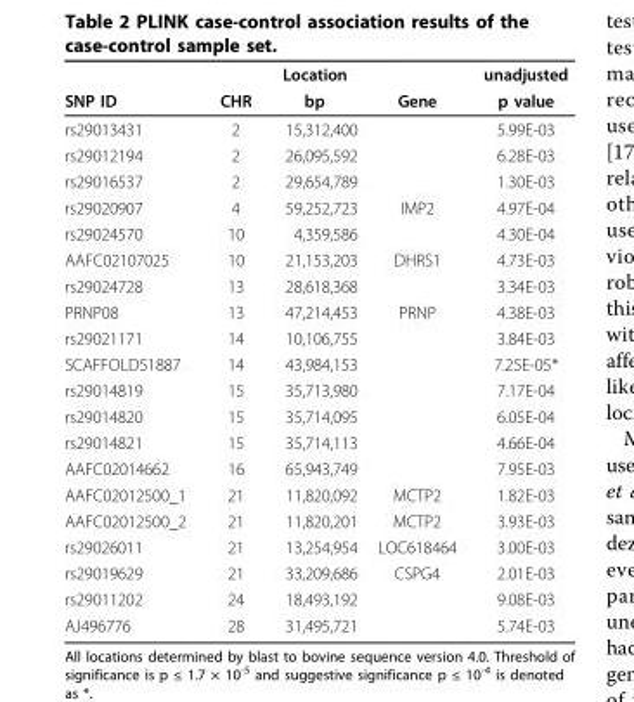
<table><thead><tr><td rowspan="2">SNP ID</td><td rowspan="2">CHR</td><td rowspan="2">Location bp</td><td rowspan="2">Gene</td><td rowspan="2">unadjusted p value</td></tr><tr></tr></thead><tbody><tr><td>rs29013431</td><td>2</td><td>15,312,400</td><td></td><td>5.99E-03</td></tr><tr><td>rs29012194</td><td>2</td><td>26,095,592</td><td></td><td>6.28E-03</td></tr><tr><td>rs29016537</td><td>2</td><td>29,654,789</td><td></td><td>1.30E-03</td></tr><tr><td>rs29020907</td><td>4</td><td>59,252,723</td><td>IMP2</td><td>4.97E-04</td></tr><tr><td>rs29024570</td><td>10</td><td>4,359,586</td><td></td><td>4.30E-04</td></tr><tr><td>AAFC02107025</td><td>10</td><td>21,153,203</td><td>DHRS1</td><td>4.73E-03</td></tr><tr><td>rs29024728</td><td>13</td><td>28,618,368</td><td></td><td>3.34E-03</td></tr><tr><td>PRNP08</td><td>13</td><td>47,214,453</td><td>PRNP</td><td>4.38E-03</td></tr><tr><td>rs29021171</td><td>14</td><td>10,106,755</td><td></td><td>3.84E-03</td></tr><tr><td>SCAFFOLD51887</td><td>14</td><td>43,984,153</td><td></td><td>7.25E-05*</td></tr><tr><td>rs29014819</td><td>15</td><td>35,713,980</td><td></td><td>7.17E-04</td></tr><tr><td>rs29014820</td><td>15</td><td>35,714,095</td><td></td><td>6.05E-04</td></tr><tr><td>rs29014821</td><td>15</td><td>35,714,113</td><td></td><td>4.66E-04</td></tr><tr><td>AAFC02014662</td><td>16</td><td>65,943,749</td><td></td><td>7.95E-03</td></tr><tr><td>AAFC02012500_1</td><td>21</td><td>11,820,092</td><td>MCTP2</td><td>1.82E-03</td></tr><tr><td>AAFC02012500_2</td><td>21</td><td>11,820,201</td><td>MCTP2</td><td>3.93E-03</td></tr><tr><td>rs29026011</td><td>21</td><td>13,254,954</td><td>LOC618464</td><td>3.00E-03</td></tr><tr><td>rs29019629</td><td>21</td><td>33,209,686</td><td>CSPG4</td><td>2.01E-03</td></tr><tr><td>rs29011202</td><td>24</td><td>18,493,192</td><td></td><td>9.08E-03</td></tr><tr><td>AJ496776</td><td>28</td><td>31,495,721</td><td></td><td>5.74E-03</td></tr></tbody></table>